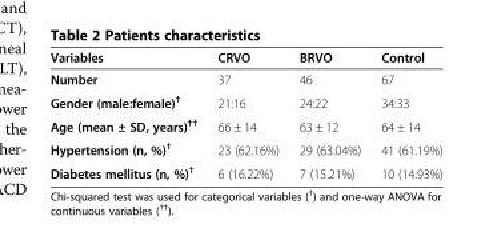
<table><thead><tr><td>Variables</td><td>CRVO</td><td>BRVO</td><td>Control</td></tr></thead><tbody><tr><td>Number</td><td>37</td><td>46</td><td>67</td></tr><tr><td>Gender (male:female)<sup>†</sup></td><td>21:16</td><td>24:22</td><td>34:33</td></tr><tr><td>Age (mean ± SD, years)<sup>††</sup></td><td>66 ± 14</td><td>63 ± 12</td><td>64 ± 14</td></tr><tr><td>Hypertension (n, %)<sup>†</sup></td><td>23 (62.16%)</td><td>29 (63.04%)</td><td>41 (61.19%)</td></tr><tr><td>Diabetes mellitus (n, %)<sup>†</sup></td><td>6 (16.22%)</td><td>7 (15.21%)</td><td>10 (14.93%)</td></tr></tbody></table>